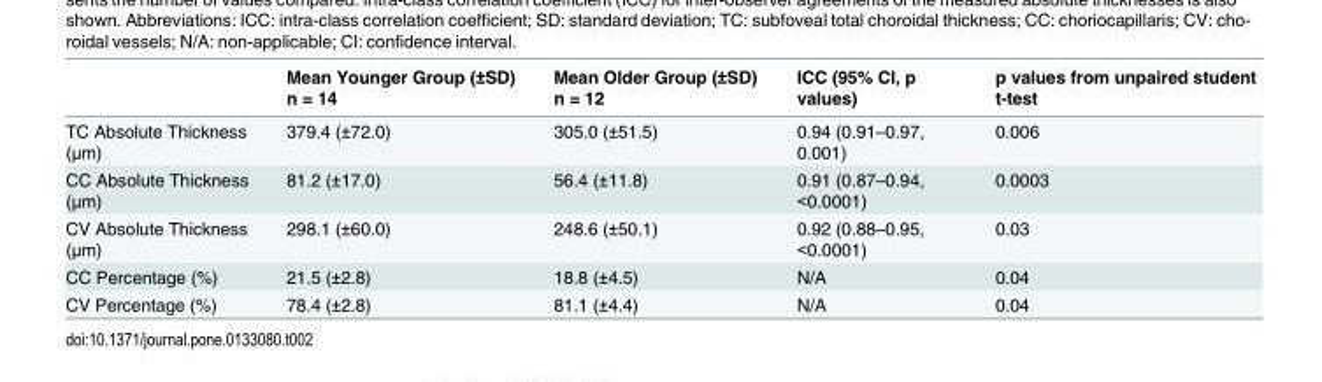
<table><thead><tr><td></td><td>Mean Younger Group (±SD) n = 14</td><td>Mean Older Group (±SD) n = 12</td><td>ICC (95% CI, p values)</td><td>p values from unpaired student t-test</td></tr></thead><tbody><tr><td>TC Absolute Thickness (μm)</td><td>379.4 (±72.0)</td><td>305.0 (±51.5)</td><td>0.94 (0.91–0.97, 0.001)</td><td>0.006</td></tr><tr><td>CC Absolute Thickness (μm)</td><td>81.2 (±17.0)</td><td>56.4 (±11.8)</td><td>0.91 (0.87–0.94, &lt;0.0001)</td><td>0.0003</td></tr><tr><td>CV Absolute Thickness (μm)</td><td>298.1 (±60.0)</td><td>248.6 (±50.1)</td><td>0.92 (0.88–0.95, &lt;0.0001)</td><td>0.03</td></tr><tr><td>CC Percentage (%)</td><td>21.5 (±2.8)</td><td>18.8 (±4.5)</td><td>N/A</td><td>0.04</td></tr><tr><td>CV Percentage (%)</td><td>78.4 (±2.8)</td><td>81.1 (±4.4)</td><td>N/A</td><td>0.04</td></tr></tbody></table>